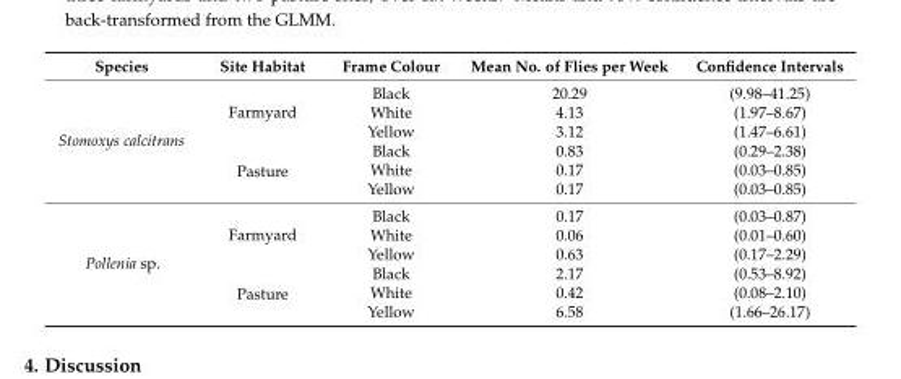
<table><thead><tr><td>Species</td><td>Site Habitat</td><td>Frame Colour</td><td>Mean No. of Flies per Week</td><td>Confidence Intervals</td></tr></thead><tbody><tr><td rowspan="6">Stomoxys calcitrans</td><td rowspan="3">Farmyard</td><td>Black</td><td>20.29</td><td>(9.98–41.25)</td></tr><tr><td>White</td><td>4.13</td><td>(1.97–8.67)</td></tr><tr><td>Yellow</td><td>3.12</td><td>(1.47–6.61)</td></tr><tr><td rowspan="3">Pasture</td><td>Black</td><td>0.83</td><td>(0.29–2.38)</td></tr><tr><td>White</td><td>0.17</td><td>(0.03–0.85)</td></tr><tr><td>Yellow</td><td>0.17</td><td>(0.03–0.85)</td></tr><tr><td rowspan="6">Pollenia sp.</td><td rowspan="3">Farmyard</td><td>Black</td><td>0.17</td><td>(0.03–0.87)</td></tr><tr><td>White</td><td>0.06</td><td>(0.01–0.60)</td></tr><tr><td>Yellow</td><td>0.63</td><td>(0.17–2.29)</td></tr><tr><td rowspan="3">Pasture</td><td>Black</td><td>2.17</td><td>(0.53–8.92)</td></tr><tr><td>White</td><td>0.42</td><td>(0.08–2.10)</td></tr><tr><td>Yellow</td><td>6.58</td><td>(1.66–26.17)</td></tr></tbody></table>